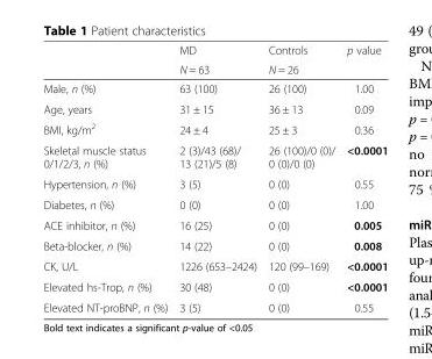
<table><thead><tr><td rowspan="2"></td><td rowspan="2">MD N = 63</td><td rowspan="2">Controls N = 26</td><td rowspan="2">p value</td></tr><tr></tr></thead><tbody><tr><td>Male, n (%)</td><td>63 (100)</td><td>26 (100)</td><td>1.00</td></tr><tr><td>Age, years</td><td>31 ± 15</td><td>36 ± 13</td><td>0.09</td></tr><tr><td>BMI, kg/m<sup>2</sup></td><td>24 ± 4</td><td>25 ± 3</td><td>0.36</td></tr><tr><td>Skeletal muscle status 0/1/2/3, n (%)</td><td>2 (3)/43 (68)/ 13 (21)/5 (8)</td><td>26 (100)/0 (0)/ 0 (0)/0 (0)</td><td>&lt;0.0001</td></tr><tr><td>Hypertension, n (%)</td><td>3 (5)</td><td>0 (0)</td><td>0.55</td></tr><tr><td>Diabetes, n (%)</td><td>0 (0)</td><td>0 (0)</td><td>1.00</td></tr><tr><td>ACE inhibitor, n (%)</td><td>16 (25)</td><td>0 (0)</td><td>0.005</td></tr><tr><td>Beta-blocker, n (%)</td><td>14 (22)</td><td>0 (0)</td><td>0.008</td></tr><tr><td>CK, U/L</td><td>1226 (653–2424)</td><td>120 (99–169)</td><td>&lt;0.0001</td></tr><tr><td>Elevated hs-Trop, n (%)</td><td>30 (48)</td><td>0 (0)</td><td>&lt;0.0001</td></tr><tr><td>Elevated NT-proBNP, n (%)</td><td>3 (5)</td><td>0 (0)</td><td>0.55</td></tr></tbody></table>